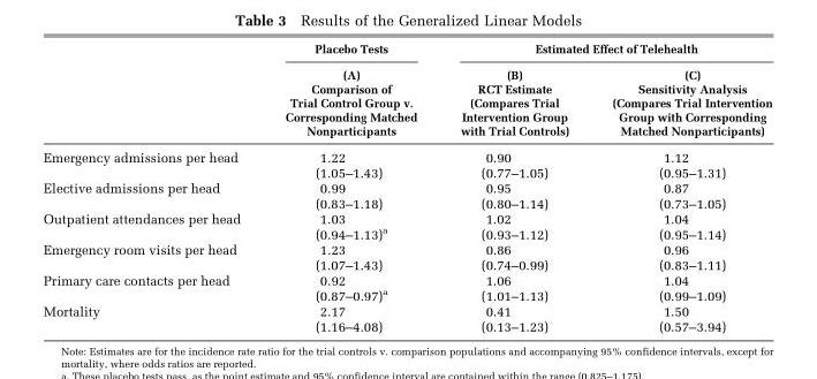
<table><thead><tr><td rowspan="2"></td><td rowspan="2">Placebo Tests (A) Comparison of Trial Control Group v. Corresponding Matched Nonparticipants</td><td colspan="2">Estimated Effect of Telehealth</td></tr><tr><td>(B) RCT Estimate (Compares Trial Intervention Group with Trial Controls)</td><td>(C) Sensitivity Analysis (Compares Trial Intervention Group with Corresponding Matched Nonparticipants)</td></tr></thead><tbody><tr><td>Emergency admissions per head</td><td>1.22 (1.05–1.43)</td><td>0.90 (0.77–1.05)</td><td>1.12 (0.95–1.31)</td></tr><tr><td>Elective admissions per head</td><td>0.99 (0.83–1.18)</td><td>0.95 (0.80–1.14)</td><td>0.87 (0.73–1.05)</td></tr><tr><td>Outpatient attendances per head</td><td>1.03 (0.94–1.13)<sup>a</sup></td><td>1.02 (0.93–1.12)</td><td>1.04 (0.95–1.14)</td></tr><tr><td>Emergency room visits per head</td><td>1.23 (1.07–1.43)</td><td>0.86 (0.74–0.99)</td><td>0.96 (0.83–1.11)</td></tr><tr><td>Primary care contacts per head</td><td>0.92 (0.87–0.97)<sup>a</sup></td><td>1.06 (1.01–1.13)</td><td>1.04 (0.99–1.09)</td></tr><tr><td>Mortality</td><td>2.17 (1.16–4.08)</td><td>0.41 (0.13–1.23)</td><td>1.50 (0.57–3.94)</td></tr></tbody></table>